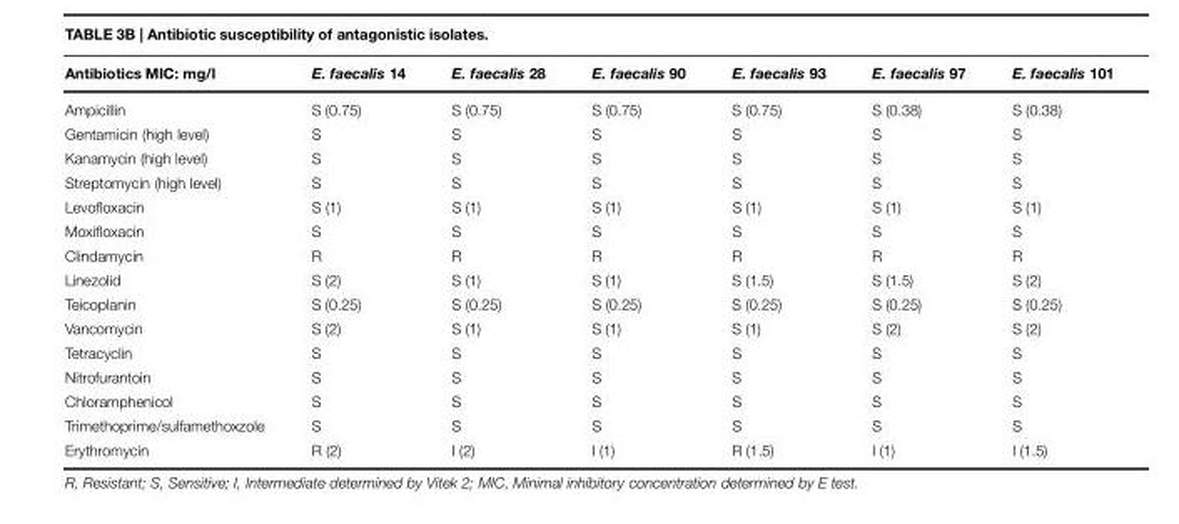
<table><thead><tr><td>Antibiotics MIC: mg/l</td><td>E. faecalis 14</td><td>E. faecalis 28</td><td>E. faecalis 90</td><td>E. faecalis 93</td><td>E. faecalis 97</td><td>E. faecalis 101</td></tr></thead><tbody><tr><td>Ampicillin</td><td>S (0.75)</td><td>S (0.75)</td><td>S (0.75)</td><td>S (0.75)</td><td>S (0.38)</td><td>S (0.38)</td></tr><tr><td>Gentamicin (high level)</td><td>S</td><td>S</td><td>S</td><td>S</td><td>S</td><td>S</td></tr><tr><td>Kanamycin (high level)</td><td>S</td><td>S</td><td>S</td><td>S</td><td>S</td><td>S</td></tr><tr><td>Streptomycin (high level)</td><td>S</td><td>S</td><td>S</td><td>S</td><td>S</td><td>S</td></tr><tr><td>Levofloxacin</td><td>S (1)</td><td>S (1)</td><td>S (1)</td><td>S (1)</td><td>S (1)</td><td>S (1)</td></tr><tr><td>Moxifloxacin</td><td>S</td><td>S</td><td>S</td><td>S</td><td>S</td><td>S</td></tr><tr><td>Clindamycin</td><td>R</td><td>R</td><td>R</td><td>R</td><td>R</td><td>R</td></tr><tr><td>Linezolid</td><td>S (2)</td><td>S (1)</td><td>S (1)</td><td>S (1.5)</td><td>S (1.5)</td><td>S (2)</td></tr><tr><td>Teicoplanin</td><td>S (0.25)</td><td>S (0.25)</td><td>S (0.25)</td><td>S (0.25)</td><td>S (0.25)</td><td>S (0.25)</td></tr><tr><td>Vancomycin</td><td>S (2)</td><td>S (1)</td><td>S (1)</td><td>S (1)</td><td>S (2)</td><td>S (2)</td></tr><tr><td>Tetracyclin</td><td>S</td><td>S</td><td>S</td><td>S</td><td>S</td><td>S</td></tr><tr><td>Nitrofurantoin</td><td>S</td><td>S</td><td>S</td><td>S</td><td>S</td><td>S</td></tr><tr><td>Chloramphenicol</td><td>S</td><td>S</td><td>S</td><td>S</td><td>S</td><td>S</td></tr><tr><td>Trimethoprime/sulfamethoxzole</td><td>S</td><td>S</td><td>S</td><td>S</td><td>S</td><td>S</td></tr><tr><td>Erythromycin</td><td>R (2)</td><td>I (2)</td><td>I (1)</td><td>R (1.5)</td><td>I (1)</td><td>I (1.5)</td></tr></tbody></table>